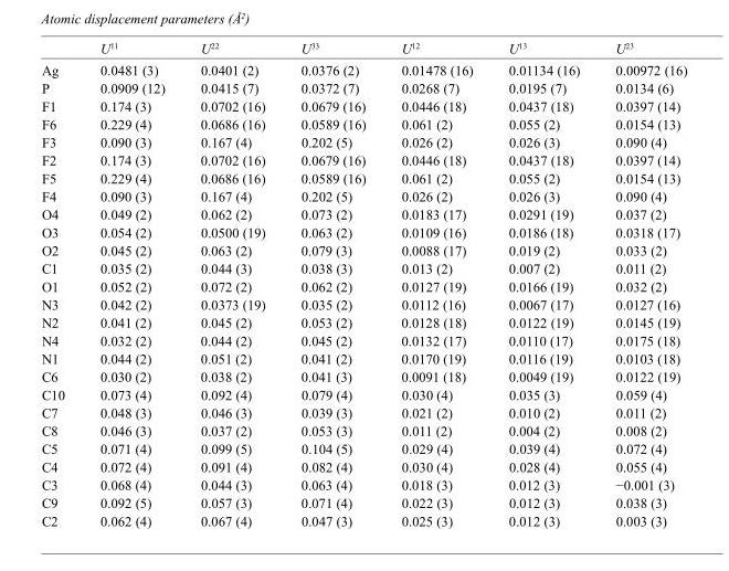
<table><thead><tr><td></td><td>U<sup>11</sup></td><td>U<sup>22</sup></td><td>U<sup>33</sup></td><td>U<sup>12</sup></td><td>U<sup>13</sup></td><td>U<sup>23</sup></td></tr></thead><tbody><tr><td>Ag</td><td>0.0481 (3)</td><td>0.0401 (2)</td><td>0.0376 (2)</td><td>0.01478 (16)</td><td>0.01134 (16)</td><td>0.00972 (16)</td></tr><tr><td>P</td><td>0.0909 (12)</td><td>0.0415 (7)</td><td>0.0372 (7)</td><td>0.0268 (7)</td><td>0.0195 (7)</td><td>0.0134 (6)</td></tr><tr><td>F1</td><td>0.174 (3)</td><td>0.0702 (16)</td><td>0.0679 (16)</td><td>0.0446 (18)</td><td>0.0437 (18)</td><td>0.0397 (14)</td></tr><tr><td>F6</td><td>0.229 (4)</td><td>0.0686 (16)</td><td>0.0589 (16)</td><td>0.061 (2)</td><td>0.055 (2)</td><td>0.0154 (13)</td></tr><tr><td>F3</td><td>0.090 (3)</td><td>0.167 (4)</td><td>0.202 (5)</td><td>0.026 (2)</td><td>0.026 (3)</td><td>0.090 (4)</td></tr><tr><td>F2</td><td>0.174 (3)</td><td>0.0702 (16)</td><td>0.0679 (16)</td><td>0.0446 (18)</td><td>0.0437 (18)</td><td>0.0397 (14)</td></tr><tr><td>F5</td><td>0.229 (4)</td><td>0.0686 (16)</td><td>0.0589 (16)</td><td>0.061 (2)</td><td>0.055 (2)</td><td>0.0154 (13)</td></tr><tr><td>F4</td><td>0.090 (3)</td><td>0.167 (4)</td><td>0.202 (5)</td><td>0.026 (2)</td><td>0.026 (3)</td><td>0.090 (4)</td></tr><tr><td>O4</td><td>0.049 (2)</td><td>0.062 (2)</td><td>0.073 (2)</td><td>0.0183 (17)</td><td>0.0291 (19)</td><td>0.037 (2)</td></tr><tr><td>O3</td><td>0.054 (2)</td><td>0.0500 (19)</td><td>0.063 (2)</td><td>0.0109 (16)</td><td>0.0186 (18)</td><td>0.0318 (17)</td></tr><tr><td>O2</td><td>0.045 (2)</td><td>0.063 (2)</td><td>0.079 (3)</td><td>0.0088 (17)</td><td>0.019 (2)</td><td>0.033 (2)</td></tr><tr><td>C1</td><td>0.035 (2)</td><td>0.044 (3)</td><td>0.038 (3)</td><td>0.013 (2)</td><td>0.007 (2)</td><td>0.011 (2)</td></tr><tr><td>O1</td><td>0.052 (2)</td><td>0.072 (2)</td><td>0.062 (2)</td><td>0.0127 (19)</td><td>0.0166 (19)</td><td>0.032 (2)</td></tr><tr><td>N3</td><td>0.042 (2)</td><td>0.0373 (19)</td><td>0.035 (2)</td><td>0.0112 (16)</td><td>0.0067 (17)</td><td>0.0127 (16)</td></tr><tr><td>N2</td><td>0.041 (2)</td><td>0.045 (2)</td><td>0.053 (2)</td><td>0.0128 (18)</td><td>0.0122 (19)</td><td>0.0145 (19)</td></tr><tr><td>N4</td><td>0.032 (2)</td><td>0.044 (2)</td><td>0.045 (2)</td><td>0.0132 (17)</td><td>0.0110 (17)</td><td>0.0175 (18)</td></tr><tr><td>N1</td><td>0.044 (2)</td><td>0.051 (2)</td><td>0.041 (2)</td><td>0.0170 (19)</td><td>0.0116 (19)</td><td>0.0103 (18)</td></tr><tr><td>C6</td><td>0.030 (2)</td><td>0.038 (2)</td><td>0.041 (3)</td><td>0.0091 (18)</td><td>0.0049 (19)</td><td>0.0122 (19)</td></tr><tr><td>C10</td><td>0.073 (4)</td><td>0.092 (4)</td><td>0.079 (4)</td><td>0.030 (4)</td><td>0.035 (3)</td><td>0.059 (4)</td></tr><tr><td>C7</td><td>0.048 (3)</td><td>0.046 (3)</td><td>0.039 (3)</td><td>0.021 (2)</td><td>0.010 (2)</td><td>0.011 (2)</td></tr><tr><td>C8</td><td>0.046 (3)</td><td>0.037 (2)</td><td>0.053 (3)</td><td>0.011 (2)</td><td>0.004 (2)</td><td>0.008 (2)</td></tr><tr><td>C5</td><td>0.071 (4)</td><td>0.099 (5)</td><td>0.104 (5)</td><td>0.029 (4)</td><td>0.039 (4)</td><td>0.072 (4)</td></tr><tr><td>C4</td><td>0.072 (4)</td><td>0.091 (4)</td><td>0.082 (4)</td><td>0.030 (4)</td><td>0.028 (4)</td><td>0.055 (4)</td></tr><tr><td>C3</td><td>0.068 (4)</td><td>0.044 (3)</td><td>0.063 (4)</td><td>0.018 (3)</td><td>0.012 (3)</td><td>−0.001 (3)</td></tr><tr><td>C9</td><td>0.092 (5)</td><td>0.057 (3)</td><td>0.071 (4)</td><td>0.022 (3)</td><td>0.012 (3)</td><td>0.038 (3)</td></tr><tr><td>C2</td><td>0.062 (4)</td><td>0.067 (4)</td><td>0.047 (3)</td><td>0.025 (3)</td><td>0.012 (3)</td><td>0.003 (3)</td></tr></tbody></table>